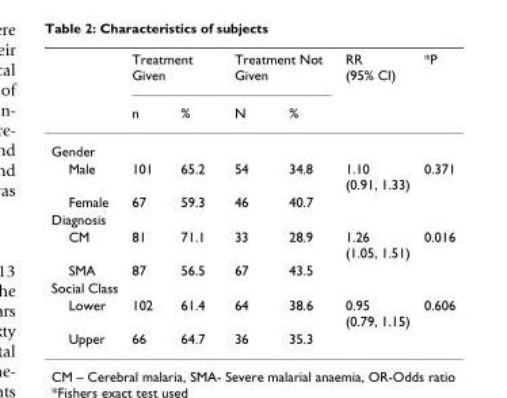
<table><thead><tr><td rowspan="2"></td><td colspan="2">Treatment Given</td><td colspan="2">Treatment Not Given</td><td rowspan="2">RR (95% CI)</td><td rowspan="2">*P</td></tr><tr><td>n</td><td>%</td><td>N</td><td>%</td></tr></thead><tbody><tr><td colspan="7">Gender</td></tr><tr><td>Male</td><td>101</td><td>65.2</td><td>54</td><td>34.8</td><td>1.10 (0.91, 1.33)</td><td>0.371</td></tr><tr><td>Female</td><td>67</td><td>59.3</td><td>46</td><td>40.7</td><td></td><td></td></tr><tr><td colspan="7">Diagnosis</td></tr><tr><td>CM</td><td>81</td><td>71.1</td><td>33</td><td>28.9</td><td>1.26 (1.05, 1.51)</td><td>0.016</td></tr><tr><td>SMA</td><td>87</td><td>56.5</td><td>67</td><td>43.5</td><td></td><td></td></tr><tr><td colspan="7">Social Class</td></tr><tr><td>Lower</td><td>102</td><td>61.4</td><td>64</td><td>38.6</td><td>0.95 (0.79, 1.15)</td><td>0.606</td></tr><tr><td>Upper</td><td>66</td><td>64.7</td><td>36</td><td>35.3</td><td></td><td></td></tr></tbody></table>